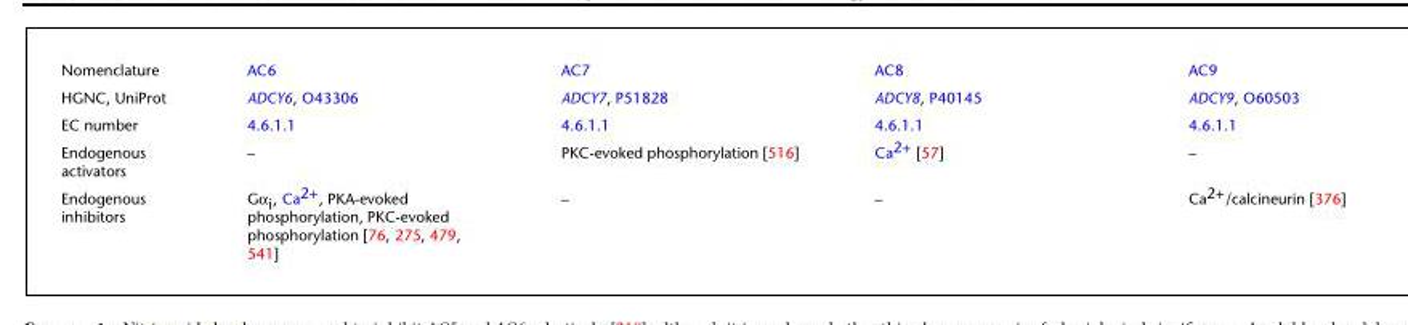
<table><tbody><tr><td>Nomenclature</td><td>AC6</td><td>AC7</td><td>AC8</td><td>AC9</td></tr><tr><td>HGNC, UniProt</td><td>ADCY6, O43306</td><td>ADCY7, P51828</td><td>ADCY8, P40145</td><td>ADCY9, O60503</td></tr><tr><td>EC number</td><td>4.6.1.1</td><td>4.6.1.1</td><td>4.6.1.1</td><td>4.6.1.1</td></tr><tr><td>Endogenous activators</td><td>–</td><td>PKC-evoked phosphorylation [516]</td><td>Ca<sup>2+</sup> [57]</td><td>–</td></tr><tr><td>Endogenous inhibitors</td><td>Gα<sub>i</sub>, Ca<sup>2+</sup>, PKA-evoked phosphorylation, PKC-evoked phosphorylation [76, 275, 479, 541]</td><td>–</td><td>–</td><td>Ca<sup>2+</sup>/calcineurin [376]</td></tr></tbody></table>